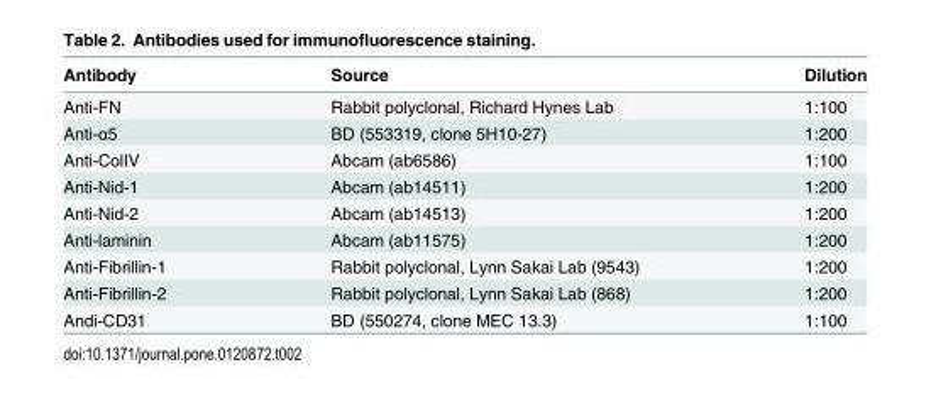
<table><thead><tr><td>Antibody</td><td>Source</td><td>Dilution</td></tr></thead><tbody><tr><td>Anti-FN</td><td>Rabbit polyclonal, Richard Hynes Lab</td><td>1:100</td></tr><tr><td>Anti-α5</td><td>BD (553319, clone 5H10-27)</td><td>1:200</td></tr><tr><td>Anti-ColIV</td><td>Abcam (ab6586)</td><td>1:100</td></tr><tr><td>Anti-Nid-1</td><td>Abcam (ab14511)</td><td>1:200</td></tr><tr><td>Anti-Nid-2</td><td>Abcam (ab14513)</td><td>1:200</td></tr><tr><td>Anti-laminin</td><td>Abcam (ab11575)</td><td>1:200</td></tr><tr><td>Anti-Fibrillin-1</td><td>Rabbit polyclonal, Lynn Sakai Lab (9543)</td><td>1:200</td></tr><tr><td>Anti-Fibrillin-2</td><td>Rabbit polyclonal, Lynn Sakai Lab (868)</td><td>1:200</td></tr><tr><td>Andi-CD31</td><td>BD (550274, clone MEC 13.3)</td><td>1:100</td></tr></tbody></table>